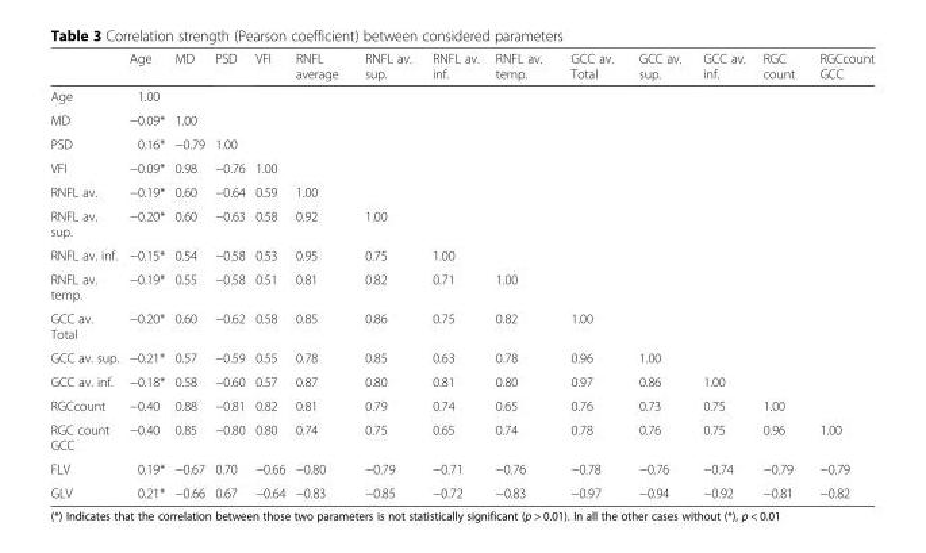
<table><thead><tr><td></td><td>Age</td><td>MD</td><td>PSD</td><td>VFI</td><td>RNFL average</td><td>RNFL av. sup.</td><td>RNFL av. inf.</td><td>RNFL av. temp.</td><td>GCC av. Total</td><td>GCC av. sup.</td><td>GCC av. inf.</td><td>RGC count</td><td>RGCcount GCC</td></tr></thead><tbody><tr><td>Age</td><td>1.00</td><td></td><td></td><td></td><td></td><td></td><td></td><td></td><td></td><td></td><td></td><td></td><td></td></tr><tr><td>MD</td><td>−0.09*</td><td>1.00</td><td></td><td></td><td></td><td></td><td></td><td></td><td></td><td></td><td></td><td></td><td></td></tr><tr><td>PSD</td><td>0.16*</td><td>−0.79</td><td>1.00</td><td></td><td></td><td></td><td></td><td></td><td></td><td></td><td></td><td></td><td></td></tr><tr><td>VFI</td><td>−0.09*</td><td>0.98</td><td>−0.76</td><td>1.00</td><td></td><td></td><td></td><td></td><td></td><td></td><td></td><td></td><td></td></tr><tr><td>RNFL av.</td><td>−0.19*</td><td>0.60</td><td>−0.64</td><td>0.59</td><td>1.00</td><td></td><td></td><td></td><td></td><td></td><td></td><td></td><td></td></tr><tr><td>RNFL av. sup.</td><td>−0.20*</td><td>0.60</td><td>−0.63</td><td>0.58</td><td>0.92</td><td>1.00</td><td></td><td></td><td></td><td></td><td></td><td></td><td></td></tr><tr><td>RNFL av. inf.</td><td>−0.15*</td><td>0.54</td><td>−0.58</td><td>0.53</td><td>0.95</td><td>0.75</td><td>1.00</td><td></td><td></td><td></td><td></td><td></td><td></td></tr><tr><td>RNFL av. temp.</td><td>−0.19*</td><td>0.55</td><td>−0.58</td><td>0.51</td><td>0.81</td><td>0.82</td><td>0.71</td><td>1.00</td><td></td><td></td><td></td><td></td><td></td></tr><tr><td>GCC av. Total</td><td>−0.20*</td><td>0.60</td><td>−0.62</td><td>0.58</td><td>0.85</td><td>0.86</td><td>0.75</td><td>0.82</td><td>1.00</td><td></td><td></td><td></td><td></td></tr><tr><td>GCC av. sup.</td><td>−0.21*</td><td>0.57</td><td>−0.59</td><td>0.55</td><td>0.78</td><td>0.85</td><td>0.63</td><td>0.78</td><td>0.96</td><td>1.00</td><td></td><td></td><td></td></tr><tr><td>GCC av. inf.</td><td>−0.18*</td><td>0.58</td><td>−0.60</td><td>0.57</td><td>0.87</td><td>0.80</td><td>0.81</td><td>0.80</td><td>0.97</td><td>0.86</td><td>1.00</td><td></td><td></td></tr><tr><td>RGCcount</td><td>−0.40</td><td>0.88</td><td>−0.81</td><td>0.82</td><td>0.81</td><td>0.79</td><td>0.74</td><td>0.65</td><td>0.76</td><td>0.73</td><td>0.75</td><td>1.00</td><td></td></tr><tr><td>RGC count GCC</td><td>−0.40</td><td>0.85</td><td>−0.80</td><td>0.80</td><td>0.74</td><td>0.75</td><td>0.65</td><td>0.74</td><td>0.78</td><td>0.76</td><td>0.75</td><td>0.96</td><td>1.00</td></tr><tr><td>FLV</td><td>0.19*</td><td>−0.67</td><td>0.70</td><td>−0.66</td><td>−0.80</td><td>−0.79</td><td>−0.71</td><td>−0.76</td><td>−0.78</td><td>−0.76</td><td>−0.74</td><td>−0.79</td><td>−0.79</td></tr><tr><td>GLV</td><td>0.21*</td><td>−0.66</td><td>0.67</td><td>−0.64</td><td>−0.83</td><td>−0.85</td><td>−0.72</td><td>−0.83</td><td>−0.97</td><td>−0.94</td><td>−0.92</td><td>−0.81</td><td>−0.82</td></tr></tbody></table>